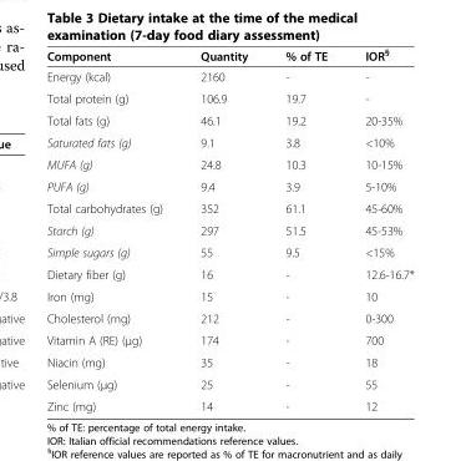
<table><thead><tr><td>Component</td><td>Quantity</td><td>% of TE</td><td>IOR<sup>§</sup></td></tr></thead><tbody><tr><td>Energy (kcal)</td><td>2160</td><td>-</td><td>-</td></tr><tr><td>Total protein (g)</td><td>106.9</td><td>19.7</td><td>-</td></tr><tr><td>Total fats (g)</td><td>46.1</td><td>19.2</td><td>20-35%</td></tr><tr><td>Saturated fats (g)</td><td>9.1</td><td>3.8</td><td>&lt;10%</td></tr><tr><td>MUFA (g)</td><td>24.8</td><td>10.3</td><td>10-15%</td></tr><tr><td>PUFA (g)</td><td>9.4</td><td>3.9</td><td>5-10%</td></tr><tr><td>Total carbohydrates (g)</td><td>352</td><td>61.1</td><td>45-60%</td></tr><tr><td>Starch (g)</td><td>297</td><td>51.5</td><td>45-53%</td></tr><tr><td>Simple sugars (g)</td><td>55</td><td>9.5</td><td>&lt;15%</td></tr><tr><td>Dietary fiber (g)</td><td>16</td><td>-</td><td>12.6-16.7*</td></tr><tr><td>Iron (mg)</td><td>15</td><td>-</td><td>10</td></tr><tr><td>Cholesterol (mg)</td><td>212</td><td>-</td><td>0-300</td></tr><tr><td>Vitamin A (RE) (μg)</td><td>174</td><td>-</td><td>700</td></tr><tr><td>Niacin (mg)</td><td>35</td><td>-</td><td>18</td></tr><tr><td>Selenium (μg)</td><td>25</td><td>-</td><td>55</td></tr><tr><td>Zinc (mg)</td><td>14</td><td>-</td><td>12</td></tr></tbody></table>